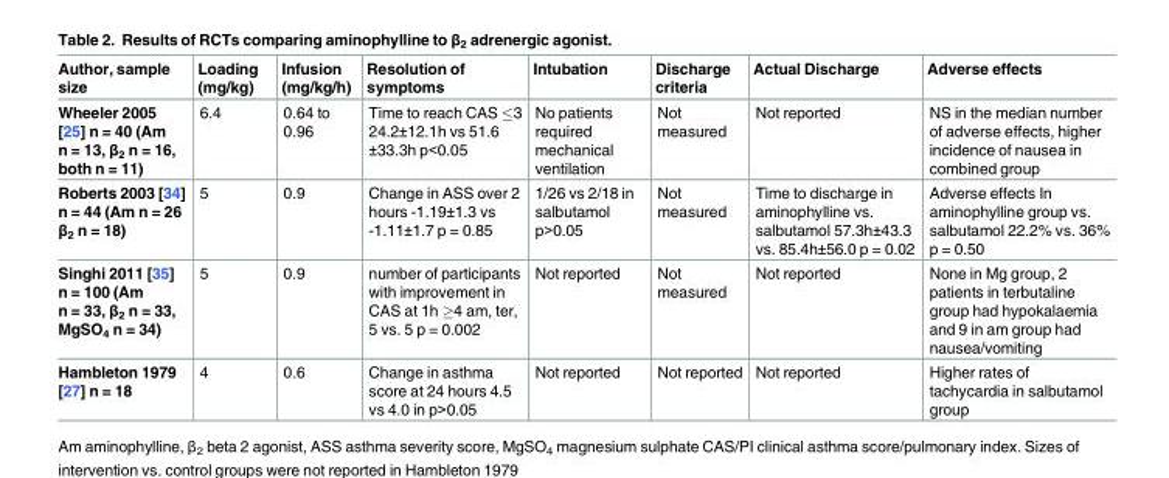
<table><thead><tr><td>Author, sample size</td><td>Loading (mg/kg)</td><td>Infusion (mg/kg/h)</td><td>Resolution of symptoms</td><td>Intubation</td><td>Discharge criteria</td><td>Actual Discharge</td><td>Adverse effects</td></tr></thead><tbody><tr><td>Wheeler 2005 [25] n = 40 (Am n = 13, β<sub>2</sub> n = 16, both n = 11)</td><td>6.4</td><td>0.64 to 0.96</td><td>Time to reach CAS ≤3 24.2±12.1h vs 51.6 ±33.3h p&lt;0.05</td><td>No patients required mechanical ventilation</td><td>Not measured</td><td>Not reported</td><td>NS in the median number of adverse effects, higher incidence of nausea in combined group</td></tr><tr><td>Roberts 2003 [34] n = 44 (Am n = 26 β<sub>2</sub> n = 18)</td><td>5</td><td>0.9</td><td>Change in ASS over 2 hours -1.19±1.3 vs -1.11±1.7 p = 0.85</td><td>1/26 vs 2/18 in salbutamol p&gt;0.05</td><td>Not measured</td><td>Time to discharge in aminophylline vs. salbutamol 57.3h±43.3 vs. 85.4h±56.0 p = 0.02</td><td>Adverse effects In aminophylline group vs. salbutamol 22.2% vs. 36% p = 0.50</td></tr><tr><td>Singhi 2011 [35] n = 100 (Am n = 33, β<sub>2</sub> n = 33, MgSO<sub>4</sub> n = 34)</td><td>5</td><td>0.9</td><td>number of participants with improvement in CAS at 1h ≥4 am, ter, 5 vs. 5 p = 0.002</td><td>Not reported</td><td>Not measured</td><td>Not reported</td><td>None in Mg group, 2 patients in terbutaline group had hypokalaemia and 9 in am group had nausea/vomiting</td></tr><tr><td>Hambleton 1979 [27] n = 18</td><td>4</td><td>0.6</td><td>Change in asthma score at 24 hours 4.5 vs 4.0 in p&gt;0.05</td><td>Not reported</td><td>Not reported</td><td>Not reported</td><td>Higher rates of tachycardia in salbutamol group</td></tr></tbody></table>